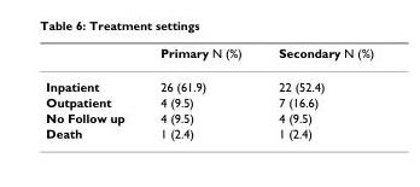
<table><thead><tr><td></td><td>Primary N (%)</td><td>Secondary N (%)</td></tr></thead><tbody><tr><td>Inpatient</td><td>26 (61.9)</td><td>22 (52.4)</td></tr><tr><td>Outpatient</td><td>4 (9.5)</td><td>7 (16.6)</td></tr><tr><td>No Follow up</td><td>4 (9.5)</td><td>4 (9.5)</td></tr><tr><td>Death</td><td>1 (2.4)</td><td>1 (2.4)</td></tr></tbody></table>